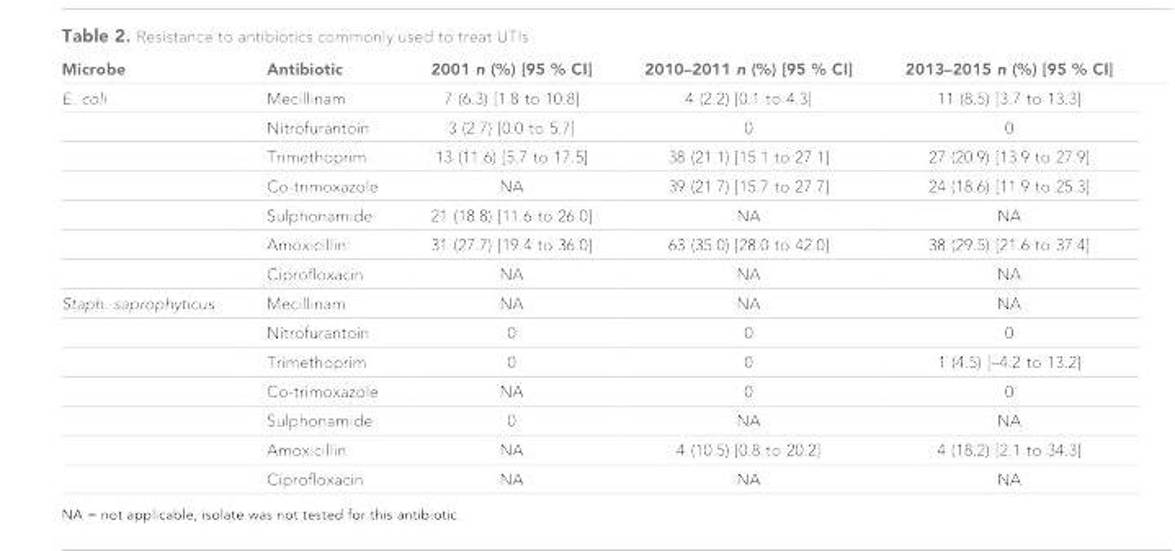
<table><thead><tr><td>Microbe</td><td>Antibiotic</td><td>2001 n (%) [95 % CI]</td><td>2010–2011 n (%) [95 % CI]</td><td>2013–2015 n (%) [95 % CI]</td></tr></thead><tbody><tr><td rowspan="7">E. coli</td><td>Mecillinam</td><td>7 (6.3) [1.8 to 10.8]</td><td>4 (2.2) [0.1 to 4.3]</td><td>11 (8.5) [3.7 to 13.3]</td></tr><tr><td>Nitrofurantoin</td><td>3 (2.7) [0.0 to 5.7]</td><td>0</td><td>0</td></tr><tr><td>Trimethoprim</td><td>13 (11.6) [5.7 to 17.5]</td><td>38 (21.1) [15.1 to 27.1]</td><td>27 (20.9) [13.9 to 27.9]</td></tr><tr><td>Co-trimoxazole</td><td>NA</td><td>39 (21.7) [15.7 to 27.7]</td><td>24 (18.6) [11.9 to 25.3]</td></tr><tr><td>Sulphonamide</td><td>21 (18.8) [11.6 to 26.0]</td><td>NA</td><td>NA</td></tr><tr><td>Amoxicillin</td><td>31 (27.7) [19.4 to 36.0]</td><td>63 (35.0) [28.0 to 42.0]</td><td>38 (29.5) [21.6 to 37.4]</td></tr><tr><td>Ciprofloxacin</td><td>NA</td><td>NA</td><td>NA</td></tr><tr><td rowspan="7">Staph. saprophyticus</td><td>Mecillinam</td><td>NA</td><td>NA</td><td>NA</td></tr><tr><td>Nitrofurantoin</td><td>0</td><td>0</td><td>0</td></tr><tr><td>Trimethoprim</td><td>0</td><td>0</td><td>1 (4.5) [–4.2 to 13.2]</td></tr><tr><td>Co-trimoxazole</td><td>NA</td><td>0</td><td>0</td></tr><tr><td>Sulphonamide</td><td>0</td><td>NA</td><td>NA</td></tr><tr><td>Amoxicillin</td><td>NA</td><td>4 (10.5) [0.8 to 20.2]</td><td>4 (18.2) [2.1 to 34.3]</td></tr><tr><td>Ciprofloxacin</td><td>NA</td><td>NA</td><td>NA</td></tr></tbody></table>